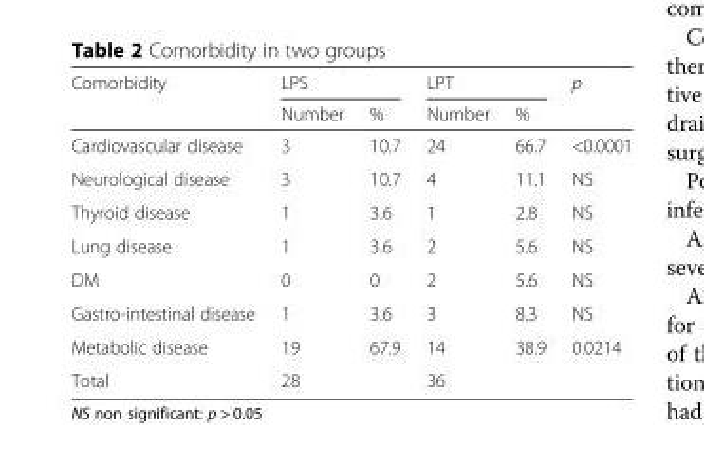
<table><thead><tr><td rowspan="2">Comorbidity</td><td colspan="2">LPS</td><td colspan="2">LPT</td><td rowspan="2">p</td></tr><tr><td>Number</td><td>%</td><td>Number</td><td>%</td></tr></thead><tbody><tr><td>Cardiovascular disease</td><td>3</td><td>10.7</td><td>24</td><td>66.7</td><td>&lt;0.0001</td></tr><tr><td>Neurological disease</td><td>3</td><td>10.7</td><td>4</td><td>11.1</td><td>NS</td></tr><tr><td>Thyroid disease</td><td>1</td><td>3.6</td><td>1</td><td>2.8</td><td>NS</td></tr><tr><td>Lung disease</td><td>1</td><td>3.6</td><td>2</td><td>5.6</td><td>NS</td></tr><tr><td>DM</td><td>0</td><td>0</td><td>2</td><td>5.6</td><td>NS</td></tr><tr><td>Gastro-intestinal disease</td><td>1</td><td>3.6</td><td>3</td><td>8.3</td><td>NS</td></tr><tr><td>Metabolic disease</td><td>19</td><td>67.9</td><td>14</td><td>38.9</td><td>0.0214</td></tr><tr><td>Total</td><td colspan="2">28</td><td colspan="2">36</td><td></td></tr></tbody></table>